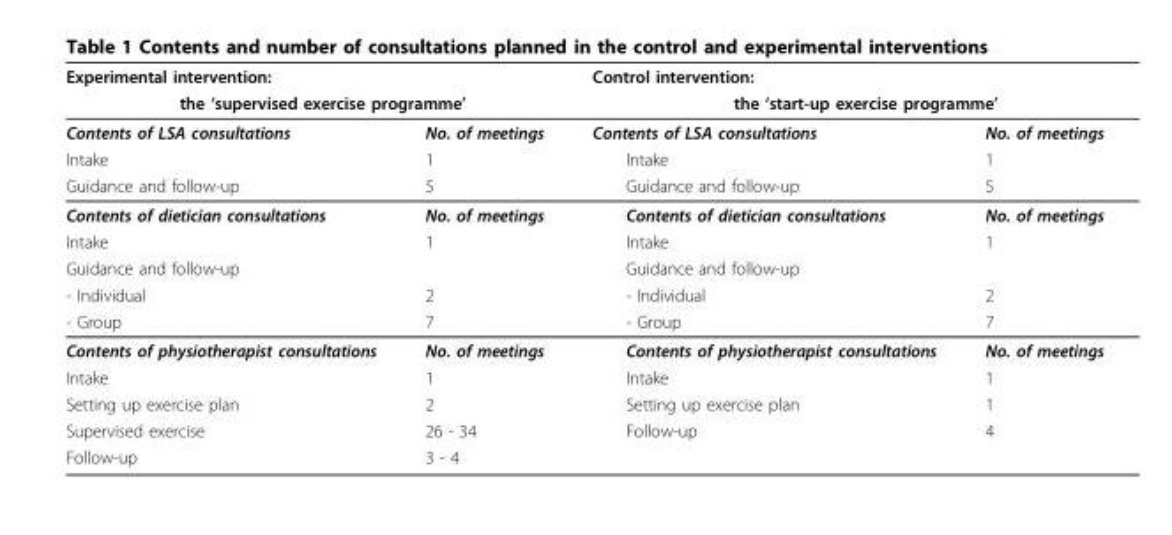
<table><thead><tr><td rowspan="2" colspan="2">Experimental intervention: the ‘supervised exercise programme’</td><td rowspan="2" colspan="2">Control intervention: the ‘start-up exercise programme’</td></tr><tr></tr><tr><td>Contents of LSA consultations</td><td>No. of meetings</td><td>Contents of LSA consultations</td><td>No. of meetings</td></tr></thead><tbody><tr><td>Intake</td><td>1</td><td>Intake</td><td>1</td></tr><tr><td>Guidance and follow-up</td><td>5</td><td>Guidance and follow-up</td><td>5</td></tr><tr><td>Contents of dietician consultations</td><td>No. of meetings</td><td>Contents of dietician consultations</td><td>No. of meetings</td></tr><tr><td>Intake</td><td>1</td><td>Intake</td><td>1</td></tr><tr><td>Guidance and follow-up</td><td></td><td>Guidance and follow-up</td><td></td></tr><tr><td>- Individual</td><td>2</td><td>- Individual</td><td>2</td></tr><tr><td>- Group</td><td>7</td><td>- Group</td><td>7</td></tr><tr><td>Contents of physiotherapist consultations</td><td>No. of meetings</td><td>Contents of physiotherapist consultations</td><td>No. of meetings</td></tr><tr><td>Intake</td><td>1</td><td>Intake</td><td>1</td></tr><tr><td>Setting up exercise plan</td><td>2</td><td>Setting up exercise plan</td><td>1</td></tr><tr><td>Supervised exercise</td><td>26 - 34</td><td>Follow-up</td><td>4</td></tr><tr><td>Follow-up</td><td>3 - 4</td><td></td><td></td></tr></tbody></table>